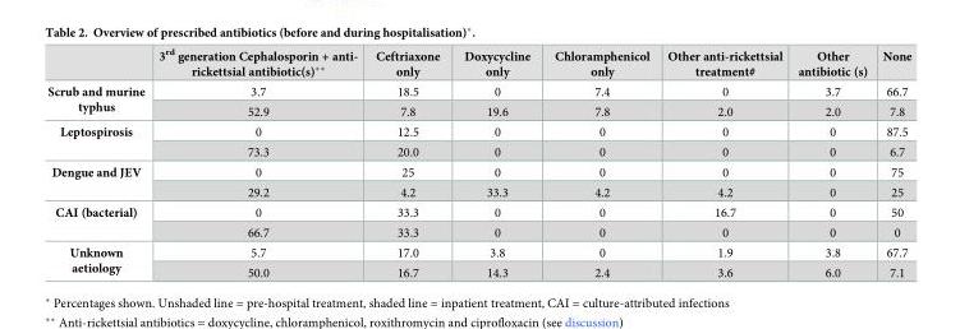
<table><thead><tr><td></td><td>3<sup>rd</sup> generation Cephalosporin + anti- rickettsial antibiotic(s)**</td><td>Ceftriaxone only</td><td>Doxycycline only</td><td>Chloramphenicol only</td><td>Other anti-rickettsial treatment#</td><td>Other antibiotic (s)</td><td>None</td></tr></thead><tbody><tr><td rowspan="2">Scrub and murine typhus</td><td>3.7</td><td>18.5</td><td>0</td><td>7.4</td><td>0</td><td>3.7</td><td>66.7</td></tr><tr><td>52.9</td><td>7.8</td><td>19.6</td><td>7.8</td><td>2.0</td><td>2.0</td><td>7.8</td></tr><tr><td rowspan="2">Leptospirosis</td><td>0</td><td>12.5</td><td>0</td><td>0</td><td>0</td><td>0</td><td>87.5</td></tr><tr><td>73.3</td><td>20.0</td><td>0</td><td>0</td><td>0</td><td>0</td><td>6.7</td></tr><tr><td rowspan="2">Dengue and JEV</td><td>0</td><td>25</td><td>0</td><td>0</td><td>0</td><td>0</td><td>75</td></tr><tr><td>29.2</td><td>4.2</td><td>33.3</td><td>4.2</td><td>4.2</td><td>0</td><td>25</td></tr><tr><td rowspan="2">CAI (bacterial)</td><td>0</td><td>33.3</td><td>0</td><td>0</td><td>16.7</td><td>0</td><td>50</td></tr><tr><td>66.7</td><td>33.3</td><td>0</td><td>0</td><td>0</td><td>0</td><td>0</td></tr><tr><td rowspan="2">Unknown aetiology</td><td>5.7</td><td>17.0</td><td>3.8</td><td>0</td><td>1.9</td><td>3.8</td><td>67.7</td></tr><tr><td>50.0</td><td>16.7</td><td>14.3</td><td>2.4</td><td>3.6</td><td>6.0</td><td>7.1</td></tr></tbody></table>